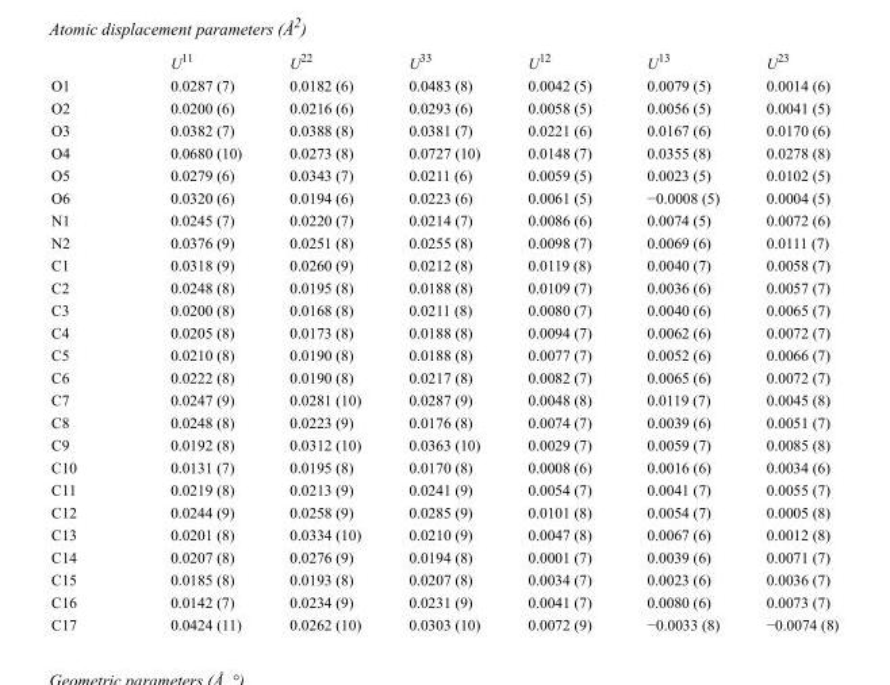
<table><thead><tr><td></td><td>U<sup>11</sup></td><td>U<sup>22</sup></td><td>U<sup>33</sup></td><td>U<sup>12</sup></td><td>U<sup>13</sup></td><td>U<sup>23</sup></td></tr></thead><tbody><tr><td>O1</td><td>0.0287 (7)</td><td>0.0182 (6)</td><td>0.0483 (8)</td><td>0.0042 (5)</td><td>0.0079 (5)</td><td>0.0014 (6)</td></tr><tr><td>O2</td><td>0.0200 (6)</td><td>0.0216 (6)</td><td>0.0293 (6)</td><td>0.0058 (5)</td><td>0.0056 (5)</td><td>0.0041 (5)</td></tr><tr><td>O3</td><td>0.0382 (7)</td><td>0.0388 (8)</td><td>0.0381 (7)</td><td>0.0221 (6)</td><td>0.0167 (6)</td><td>0.0170 (6)</td></tr><tr><td>O4</td><td>0.0680 (10)</td><td>0.0273 (8)</td><td>0.0727 (10)</td><td>0.0148 (7)</td><td>0.0355 (8)</td><td>0.0278 (8)</td></tr><tr><td>O5</td><td>0.0279 (6)</td><td>0.0343 (7)</td><td>0.0211 (6)</td><td>0.0059 (5)</td><td>0.0023 (5)</td><td>0.0102 (5)</td></tr><tr><td>O6</td><td>0.0320 (6)</td><td>0.0194 (6)</td><td>0.0223 (6)</td><td>0.0061 (5)</td><td>−0.0008 (5)</td><td>0.0004 (5)</td></tr><tr><td>N1</td><td>0.0245 (7)</td><td>0.0220 (7)</td><td>0.0214 (7)</td><td>0.0086 (6)</td><td>0.0074 (5)</td><td>0.0072 (6)</td></tr><tr><td>N2</td><td>0.0376 (9)</td><td>0.0251 (8)</td><td>0.0255 (8)</td><td>0.0098 (7)</td><td>0.0069 (6)</td><td>0.0111 (7)</td></tr><tr><td>C1</td><td>0.0318 (9)</td><td>0.0260 (9)</td><td>0.0212 (8)</td><td>0.0119 (8)</td><td>0.0040 (7)</td><td>0.0058 (7)</td></tr><tr><td>C2</td><td>0.0248 (8)</td><td>0.0195 (8)</td><td>0.0188 (8)</td><td>0.0109 (7)</td><td>0.0036 (6)</td><td>0.0057 (7)</td></tr><tr><td>C3</td><td>0.0200 (8)</td><td>0.0168 (8)</td><td>0.0211 (8)</td><td>0.0080 (7)</td><td>0.0040 (6)</td><td>0.0065 (7)</td></tr><tr><td>C4</td><td>0.0205 (8)</td><td>0.0173 (8)</td><td>0.0188 (8)</td><td>0.0094 (7)</td><td>0.0062 (6)</td><td>0.0072 (7)</td></tr><tr><td>C5</td><td>0.0210 (8)</td><td>0.0190 (8)</td><td>0.0188 (8)</td><td>0.0077 (7)</td><td>0.0052 (6)</td><td>0.0066 (7)</td></tr><tr><td>C6</td><td>0.0222 (8)</td><td>0.0190 (8)</td><td>0.0217 (8)</td><td>0.0082 (7)</td><td>0.0065 (6)</td><td>0.0072 (7)</td></tr><tr><td>C7</td><td>0.0247 (9)</td><td>0.0281 (10)</td><td>0.0287 (9)</td><td>0.0048 (8)</td><td>0.0119 (7)</td><td>0.0045 (8)</td></tr><tr><td>C8</td><td>0.0248 (8)</td><td>0.0223 (9)</td><td>0.0176 (8)</td><td>0.0074 (7)</td><td>0.0039 (6)</td><td>0.0051 (7)</td></tr><tr><td>C9</td><td>0.0192 (8)</td><td>0.0312 (10)</td><td>0.0363 (10)</td><td>0.0029 (7)</td><td>0.0059 (7)</td><td>0.0085 (8)</td></tr><tr><td>C10</td><td>0.0131 (7)</td><td>0.0195 (8)</td><td>0.0170 (8)</td><td>0.0008 (6)</td><td>0.0016 (6)</td><td>0.0034 (6)</td></tr><tr><td>C11</td><td>0.0219 (8)</td><td>0.0213 (9)</td><td>0.0241 (9)</td><td>0.0054 (7)</td><td>0.0041 (7)</td><td>0.0055 (7)</td></tr><tr><td>C12</td><td>0.0244 (9)</td><td>0.0258 (9)</td><td>0.0285 (9)</td><td>0.0101 (8)</td><td>0.0054 (7)</td><td>0.0005 (8)</td></tr><tr><td>C13</td><td>0.0201 (8)</td><td>0.0334 (10)</td><td>0.0210 (9)</td><td>0.0047 (8)</td><td>0.0067 (6)</td><td>0.0012 (8)</td></tr><tr><td>C14</td><td>0.0207 (8)</td><td>0.0276 (9)</td><td>0.0194 (8)</td><td>0.0001 (7)</td><td>0.0039 (6)</td><td>0.0071 (7)</td></tr><tr><td>C15</td><td>0.0185 (8)</td><td>0.0193 (8)</td><td>0.0207 (8)</td><td>0.0034 (7)</td><td>0.0023 (6)</td><td>0.0036 (7)</td></tr><tr><td>C16</td><td>0.0142 (7)</td><td>0.0234 (9)</td><td>0.0231 (9)</td><td>0.0041 (7)</td><td>0.0080 (6)</td><td>0.0073 (7)</td></tr><tr><td>C17</td><td>0.0424 (11)</td><td>0.0262 (10)</td><td>0.0303 (10)</td><td>0.0072 (9)</td><td>−0.0033 (8)</td><td>−0.0074 (8)</td></tr></tbody></table>